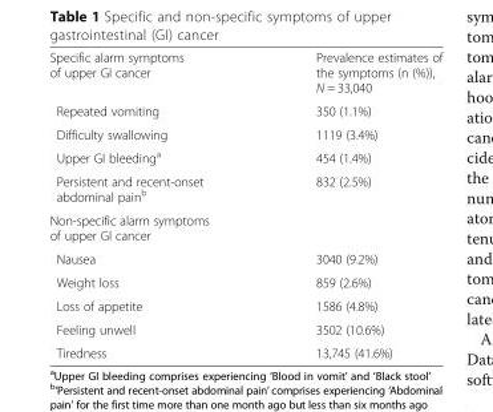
<table><tbody><tr><td>Specific alarm symptoms of upper GI cancer</td><td>Prevalence estimates of the symptoms (n (%)), N = 33,040</td></tr><tr><td>Repeated vomiting</td><td>350 (1.1%)</td></tr><tr><td>Difficulty swallowing</td><td>1119 (3.4%)</td></tr><tr><td>Upper GI bleeding<sup>a</sup></td><td>454 (1.4%)</td></tr><tr><td>Persistent and recent-onset abdominal pain<sup>b</sup></td><td>832 (2.5%)</td></tr><tr><td colspan="2">Non-specific alarm symptoms of upper GI cancer</td></tr><tr><td>Nausea</td><td>3040 (9.2%)</td></tr><tr><td>Weight loss</td><td>859 (2.6%)</td></tr><tr><td>Loss of appetite</td><td>1586 (4.8%)</td></tr><tr><td>Feeling unwell</td><td>3502 (10.6%)</td></tr><tr><td>Tiredness</td><td>13,745 (41.6%)</td></tr></tbody></table>